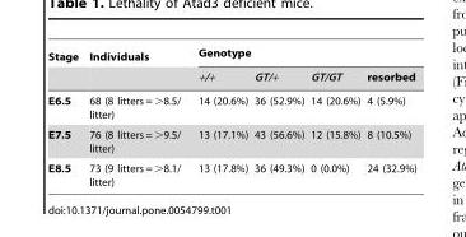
<table><thead><tr><td rowspan="2">Stage</td><td rowspan="2">Individuals</td><td colspan="4">Genotype</td></tr><tr><td>+/+</td><td>GT/+</td><td>GT/GT</td><td>resorbed</td></tr></thead><tbody><tr><td>E6.5</td><td>68 (8 litters = &gt;8.5/ litter)</td><td>14 (20.6%)</td><td>36 (52.9%)</td><td>14 (20.6%)</td><td>4 (5.9%)</td></tr><tr><td>E7.5</td><td>76 (8 litters = &gt;9.5/ litter)</td><td>13 (17.1%)</td><td>43 (56.6%)</td><td>12 (15.8%)</td><td>8 (10.5%)</td></tr><tr><td>E8.5</td><td>73 (9 litters = &gt;8.1/ litter)</td><td>13 (17.8%)</td><td>36 (49.3%)</td><td>0 (0.0%)</td><td>24 (32.9%)</td></tr></tbody></table>